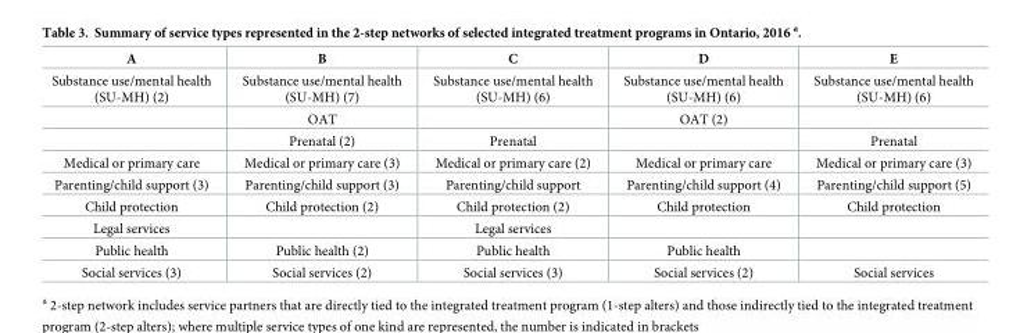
<table><thead><tr><td>A</td><td>B</td><td>C</td><td>D</td><td>E</td></tr></thead><tbody><tr><td rowspan="3">Substance use/mental health (SU-MH) (2)</td><td>Substance use/mental health (SU-MH) (7)</td><td>Substance use/mental health (SU-MH) (6)</td><td>Substance use/mental health (SU-MH) (6)</td><td>Substance use/mental health (SU-MH) (6)</td></tr><tr><td>OAT</td><td></td><td>OAT (2)</td><td></td></tr><tr><td>Prenatal (2)</td><td>Prenatal</td><td></td><td>Prenatal</td></tr><tr><td>Medical or primary care</td><td>Medical or primary care (3)</td><td>Medical or primary care (2)</td><td>Medical or primary care</td><td>Medical or primary care (3)</td></tr><tr><td>Parenting/child support (3)</td><td>Parenting/child support (3)</td><td>Parenting/child support</td><td>Parenting/child support (4)</td><td>Parenting/child support (5)</td></tr><tr><td>Child protection</td><td>Child protection (2)</td><td>Child protection (2)</td><td>Child protection</td><td>Child protection</td></tr><tr><td>Legal services</td><td></td><td>Legal services</td><td></td><td></td></tr><tr><td>Public health</td><td>Public health (2)</td><td>Public health</td><td>Public health</td><td></td></tr><tr><td>Social services (3)</td><td>Social services (2)</td><td>Social services (3)</td><td>Social services (2)</td><td>Social services</td></tr></tbody></table>